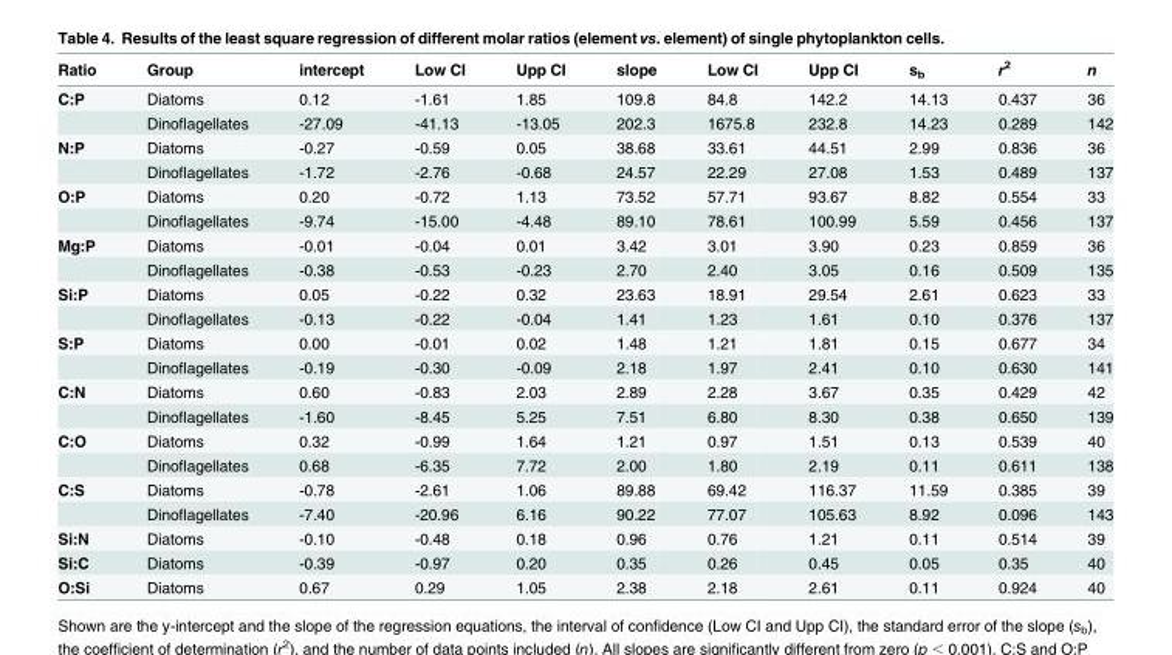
<table><thead><tr><td>Ratio</td><td>Group</td><td>intercept</td><td>Low CI</td><td>Upp CI</td><td>slope</td><td>Low CI</td><td>Upp CI</td><td>s<sub>b</sub></td><td>r<sup>2</sup></td><td>n</td></tr></thead><tbody><tr><td rowspan="2">C:P</td><td>Diatoms</td><td>0.12</td><td>-1.61</td><td>1.85</td><td>109.8</td><td>84.8</td><td>142.2</td><td>14.13</td><td>0.437</td><td>36</td></tr><tr><td>Dinoflagellates</td><td>-27.09</td><td>-41.13</td><td>-13.05</td><td>202.3</td><td>1675.8</td><td>232.8</td><td>14.23</td><td>0.289</td><td>142</td></tr><tr><td rowspan="2">N:P</td><td>Diatoms</td><td>-0.27</td><td>-0.59</td><td>0.05</td><td>38.68</td><td>33.61</td><td>44.51</td><td>2.99</td><td>0.836</td><td>36</td></tr><tr><td>Dinoflagellates</td><td>-1.72</td><td>-2.76</td><td>-0.68</td><td>24.57</td><td>22.29</td><td>27.08</td><td>1.53</td><td>0.489</td><td>137</td></tr><tr><td rowspan="2">O:P</td><td>Diatoms</td><td>0.20</td><td>-0.72</td><td>1.13</td><td>73.52</td><td>57.71</td><td>93.67</td><td>8.82</td><td>0.554</td><td>33</td></tr><tr><td>Dinoflagellates</td><td>-9.74</td><td>-15.00</td><td>-4.48</td><td>89.10</td><td>78.61</td><td>100.99</td><td>5.59</td><td>0.456</td><td>137</td></tr><tr><td rowspan="2">Mg:P</td><td>Diatoms</td><td>-0.01</td><td>-0.04</td><td>0.01</td><td>3.42</td><td>3.01</td><td>3.90</td><td>0.23</td><td>0.859</td><td>36</td></tr><tr><td>Dinoflagellates</td><td>-0.38</td><td>-0.53</td><td>-0.23</td><td>2.70</td><td>2.40</td><td>3.05</td><td>0.16</td><td>0.509</td><td>135</td></tr><tr><td rowspan="2">Si:P</td><td>Diatoms</td><td>0.05</td><td>-0.22</td><td>0.32</td><td>23.63</td><td>18.91</td><td>29.54</td><td>2.61</td><td>0.623</td><td>33</td></tr><tr><td>Dinoflagellates</td><td>-0.13</td><td>-0.22</td><td>-0.04</td><td>1.41</td><td>1.23</td><td>1.61</td><td>0.10</td><td>0.376</td><td>137</td></tr><tr><td rowspan="2">S:P</td><td>Diatoms</td><td>0.00</td><td>-0.01</td><td>0.02</td><td>1.48</td><td>1.21</td><td>1.81</td><td>0.15</td><td>0.677</td><td>34</td></tr><tr><td>Dinoflagellates</td><td>-0.19</td><td>-0.30</td><td>-0.09</td><td>2.18</td><td>1.97</td><td>2.41</td><td>0.10</td><td>0.630</td><td>141</td></tr><tr><td rowspan="2">C:N</td><td>Diatoms</td><td>0.60</td><td>-0.83</td><td>2.03</td><td>2.89</td><td>2.28</td><td>3.67</td><td>0.35</td><td>0.429</td><td>42</td></tr><tr><td>Dinoflagellates</td><td>-1.60</td><td>-8.45</td><td>5.25</td><td>7.51</td><td>6.80</td><td>8.30</td><td>0.38</td><td>0.650</td><td>139</td></tr><tr><td rowspan="2">C:O</td><td>Diatoms</td><td>0.32</td><td>-0.99</td><td>1.64</td><td>1.21</td><td>0.97</td><td>1.51</td><td>0.13</td><td>0.539</td><td>40</td></tr><tr><td>Dinoflagellates</td><td>0.68</td><td>-6.35</td><td>7.72</td><td>2.00</td><td>1.80</td><td>2.19</td><td>0.11</td><td>0.611</td><td>138</td></tr><tr><td rowspan="2">C:S</td><td>Diatoms</td><td>-0.78</td><td>-2.61</td><td>1.06</td><td>89.88</td><td>69.42</td><td>116.37</td><td>11.59</td><td>0.385</td><td>39</td></tr><tr><td>Dinoflagellates</td><td>-7.40</td><td>-20.96</td><td>6.16</td><td>90.22</td><td>77.07</td><td>105.63</td><td>8.92</td><td>0.096</td><td>143</td></tr><tr><td>Si:N</td><td>Diatoms</td><td>-0.10</td><td>-0.48</td><td>0.18</td><td>0.96</td><td>0.76</td><td>1.21</td><td>0.11</td><td>0.514</td><td>39</td></tr><tr><td>Si:C</td><td>Diatoms</td><td>-0.39</td><td>-0.97</td><td>0.20</td><td>0.35</td><td>0.26</td><td>0.45</td><td>0.05</td><td>0.35</td><td>40</td></tr><tr><td>O:Si</td><td>Diatoms</td><td>0.67</td><td>0.29</td><td>1.05</td><td>2.38</td><td>2.18</td><td>2.61</td><td>0.11</td><td>0.924</td><td>40</td></tr></tbody></table>